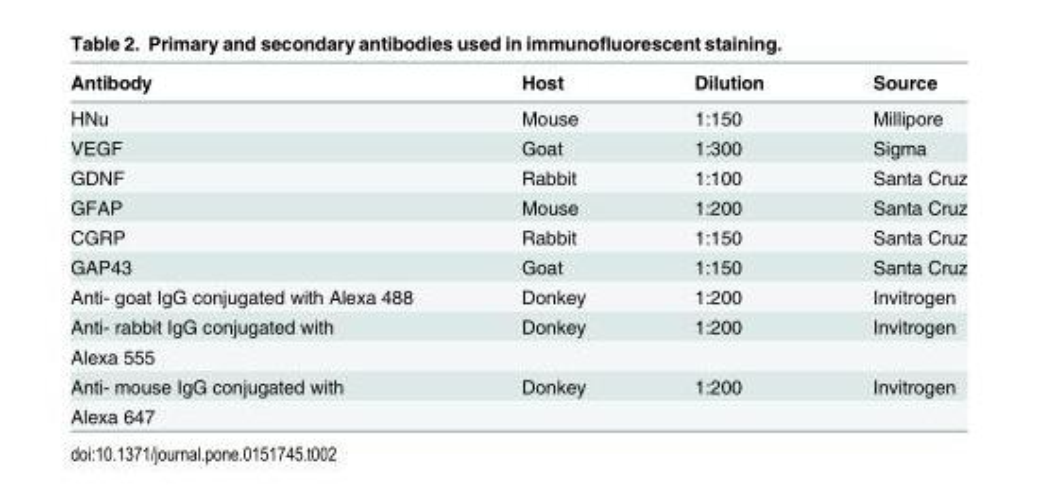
<table><thead><tr><td>Antibody</td><td>Host</td><td>Dilution</td><td>Source</td></tr></thead><tbody><tr><td>HNu</td><td>Mouse</td><td>1:150</td><td>Millipore</td></tr><tr><td>VEGF</td><td>Goat</td><td>1:300</td><td>Sigma</td></tr><tr><td>GDNF</td><td>Rabbit</td><td>1:100</td><td>Santa Cruz</td></tr><tr><td>GFAP</td><td>Mouse</td><td>1:200</td><td>Santa Cruz</td></tr><tr><td>CGRP</td><td>Rabbit</td><td>1:150</td><td>Santa Cruz</td></tr><tr><td>GAP43</td><td>Goat</td><td>1:150</td><td>Santa Cruz</td></tr><tr><td>Anti- goat IgG conjugated with Alexa 488</td><td>Donkey</td><td>1:200</td><td>Invitrogen</td></tr><tr><td>Anti- rabbit IgG conjugated with</td><td>Donkey</td><td>1:200</td><td>Invitrogen</td></tr><tr><td colspan="4">Alexa 555</td></tr><tr><td>Anti- mouse IgG conjugated with</td><td>Donkey</td><td>1:200</td><td>Invitrogen</td></tr><tr><td>Alexa 647</td><td></td><td></td><td></td></tr></tbody></table>